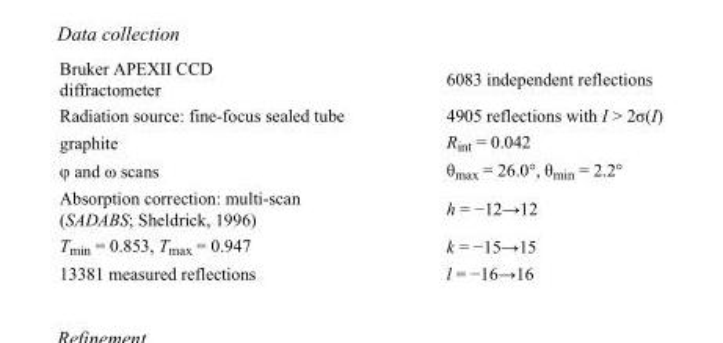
<table><tbody><tr><td>Bruker APEXII CCD diffractometer</td><td>6083 independent reflections</td></tr><tr><td>Radiation source: fine-focus sealed tube</td><td>4905 reflections with I &gt; 2σ(I)</td></tr><tr><td>graphite</td><td>R<sub>int</sub> = 0.042</td></tr><tr><td>φ and ω scans</td><td>θ<sub>max</sub> = 26.0°, θ<sub>min</sub> = 2.2°</td></tr><tr><td>Absorption correction: multi-scan (SADABS; Sheldrick, 1996)</td><td>h = −12→12</td></tr><tr><td>T<sub>min</sub> = 0.853, T<sub>max</sub> = 0.947</td><td>k = −15→15</td></tr><tr><td>13381 measured reflections</td><td>l = −16→16</td></tr></tbody></table>